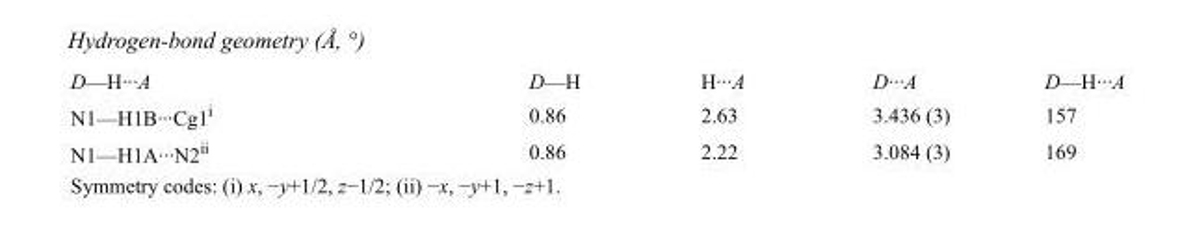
<table><tbody><tr><td>D—H···A</td><td>D—H</td><td>H···A</td><td>D···A</td><td>D—H···A</td></tr><tr><td>N1—H1B···Cg1<sup>i</sup></td><td>0.86</td><td>2.63</td><td>3.436 (3)</td><td>157</td></tr><tr><td>N1—H1A···N2<sup>ii</sup></td><td>0.86</td><td>2.22</td><td>3.084 (3)</td><td>169</td></tr></tbody></table>